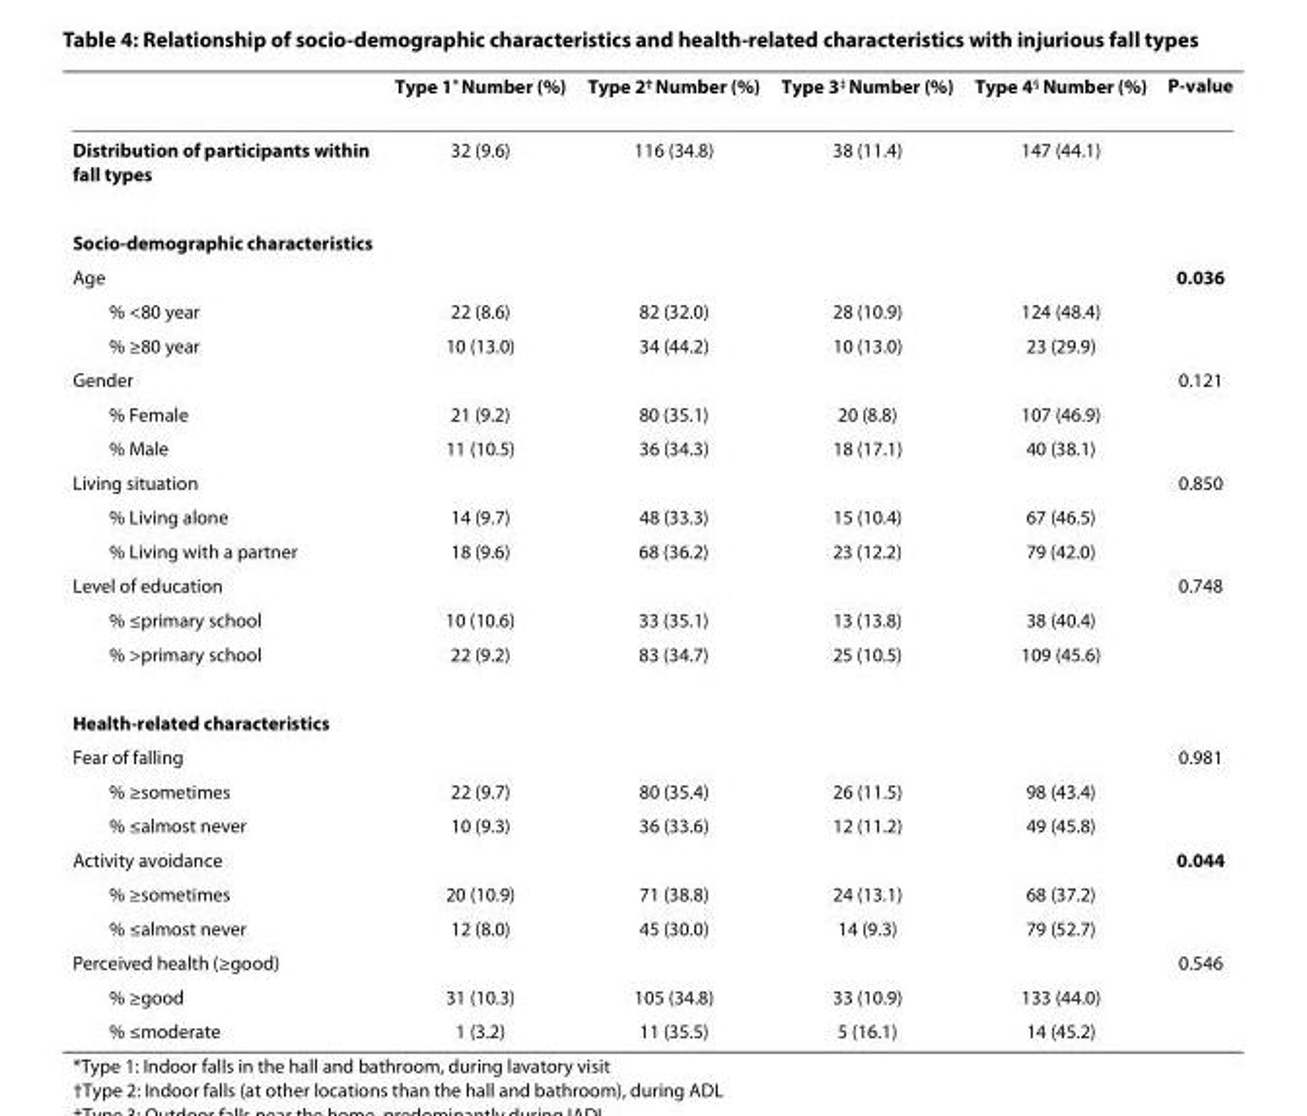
<table><thead><tr><td></td><td>Type 1* Number (%)</td><td>Type 2<sup>†</sup> Number (%)</td><td>Type 3<sup>‡</sup> Number (%)</td><td>Type 4<sup>§</sup> Number (%)</td><td>P-value</td></tr></thead><tbody><tr><td>Distribution of participants within fall types</td><td>32 (9.6)</td><td>116 (34.8)</td><td>38 (11.4)</td><td>147 (44.1)</td><td></td></tr><tr><td colspan="6">Socio-demographic characteristics</td></tr><tr><td>Age</td><td></td><td></td><td></td><td></td><td>0.036</td></tr><tr><td>% &lt;80 year</td><td>22 (8.6)</td><td>82 (32.0)</td><td>28 (10.9)</td><td>124 (48.4)</td><td></td></tr><tr><td>% ≥80 year</td><td>10 (13.0)</td><td>34 (44.2)</td><td>10 (13.0)</td><td>23 (29.9)</td><td></td></tr><tr><td>Gender</td><td></td><td></td><td></td><td></td><td>0.121</td></tr><tr><td>% Female</td><td>21 (9.2)</td><td>80 (35.1)</td><td>20 (8.8)</td><td>107 (46.9)</td><td></td></tr><tr><td>% Male</td><td>11 (10.5)</td><td>36 (34.3)</td><td>18 (17.1)</td><td>40 (38.1)</td><td></td></tr><tr><td>Living situation</td><td></td><td></td><td></td><td></td><td>0.850</td></tr><tr><td>% Living alone</td><td>14 (9.7)</td><td>48 (33.3)</td><td>15 (10.4)</td><td>67 (46.5)</td><td></td></tr><tr><td>% Living with a partner</td><td>18 (9.6)</td><td>68 (36.2)</td><td>23 (12.2)</td><td>79 (42.0)</td><td></td></tr><tr><td>Level of education</td><td></td><td></td><td></td><td></td><td>0.748</td></tr><tr><td>% ≤primary school</td><td>10 (10.6)</td><td>33 (35.1)</td><td>13 (13.8)</td><td>38 (40.4)</td><td></td></tr><tr><td>% &gt;primary school</td><td>22 (9.2)</td><td>83 (34.7)</td><td>25 (10.5)</td><td>109 (45.6)</td><td></td></tr><tr><td colspan="6">Health-related characteristics</td></tr><tr><td>Fear of falling</td><td></td><td></td><td></td><td></td><td>0.981</td></tr><tr><td>% ≥sometimes</td><td>22 (9.7)</td><td>80 (35.4)</td><td>26 (11.5)</td><td>98 (43.4)</td><td></td></tr><tr><td>% ≤almost never</td><td>10 (9.3)</td><td>36 (33.6)</td><td>12 (11.2)</td><td>49 (45.8)</td><td></td></tr><tr><td>Activity avoidance</td><td></td><td></td><td></td><td></td><td>0.044</td></tr><tr><td>% ≥sometimes</td><td>20 (10.9)</td><td>71 (38.8)</td><td>24 (13.1)</td><td>68 (37.2)</td><td></td></tr><tr><td>% ≤almost never</td><td>12 (8.0)</td><td>45 (30.0)</td><td>14 (9.3)</td><td>79 (52.7)</td><td></td></tr><tr><td>Perceived health (≥good)</td><td></td><td></td><td></td><td></td><td>0.546</td></tr><tr><td>% ≥good</td><td>31 (10.3)</td><td>105 (34.8)</td><td>33 (10.9)</td><td>133 (44.0)</td><td></td></tr><tr><td>% ≤moderate</td><td>1 (3.2)</td><td>11 (35.5)</td><td>5 (16.1)</td><td>14 (45.2)</td><td></td></tr></tbody></table>